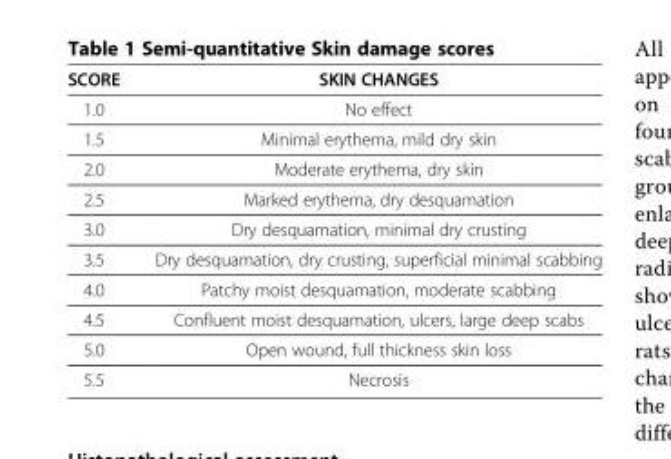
<table><thead><tr><td>SCORE</td><td>SKIN CHANGES</td></tr></thead><tbody><tr><td>1.0</td><td>No effect</td></tr><tr><td>1.5</td><td>Minimal erythema, mild dry skin</td></tr><tr><td>2.0</td><td>Moderate erythema, dry skin</td></tr><tr><td>2.5</td><td>Marked erythema, dry desquamation</td></tr><tr><td>3.0</td><td>Dry desquamation, minimal dry crusting</td></tr><tr><td>3.5</td><td>Dry desquamation, dry crusting, superficial minimal scabbing</td></tr><tr><td>4.0</td><td>Patchy moist desquamation, moderate scabbing</td></tr><tr><td>4.5</td><td>Confluent moist desquamation, ulcers, large deep scabs</td></tr><tr><td>5.0</td><td>Open wound, full thickness skin loss</td></tr><tr><td>5.5</td><td>Necrosis</td></tr></tbody></table>